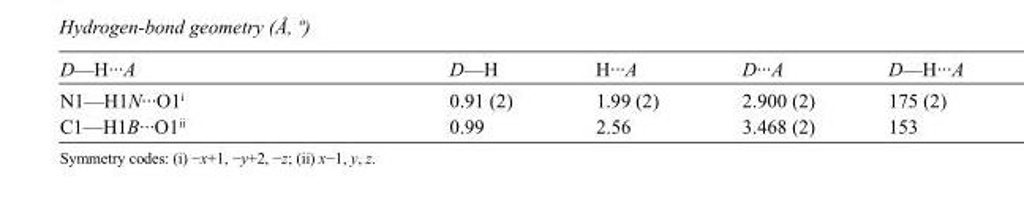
<table><tbody><tr><td>D—H···A</td><td>D—H</td><td>H···A</td><td>D···A</td><td>D—H···A</td></tr><tr><td>N1—H1N···O1<sup>i</sup></td><td>0.91 (2)</td><td>1.99 (2)</td><td>2.900 (2)</td><td>175 (2)</td></tr><tr><td>C1—H1B···O1<sup>ii</sup></td><td>0.99</td><td>2.56</td><td>3.468 (2)</td><td>153</td></tr></tbody></table>